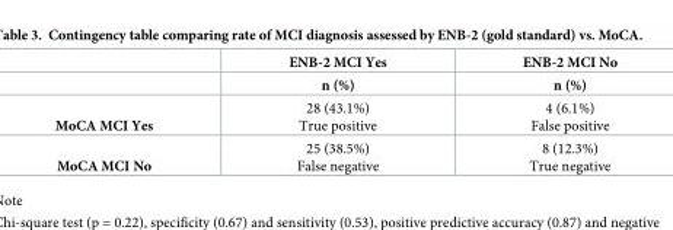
<table><thead><tr><td rowspan="2"></td><td rowspan="2">ENB-2 MCI Yes n (%)</td><td rowspan="2">ENB-2 MCI No n (%)</td></tr><tr></tr></thead><tbody><tr><td>MoCA MCI Yes</td><td>28 (43.1%) True positive</td><td>4 (6.1%) False positive</td></tr><tr><td>MoCA MCI No</td><td>25 (38.5%) False negative</td><td>8 (12.3%) True negative</td></tr></tbody></table>